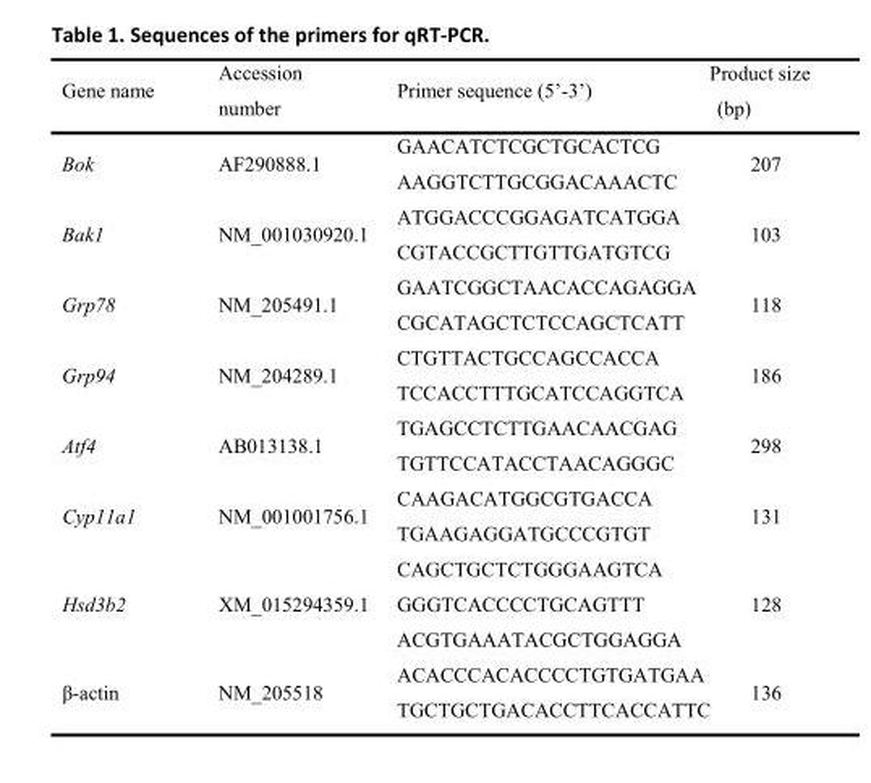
<table><tbody><tr><td>Gene name</td><td>Accession number</td><td>Primer sequence (5’-3’)</td><td colspan="2">Product size (bp)</td></tr><tr><td>Bok</td><td>AF290888.1</td><td colspan="2">GAACATCTCGCTGCACTCG AAGGTCTTGCGGACAAACTC</td><td>207</td></tr><tr><td rowspan="2">Bak1</td><td rowspan="2">NM_001030920.1</td><td colspan="2">ATGGACCCGGAGATCATGGA</td><td rowspan="2">103</td></tr><tr><td colspan="2">CGTACCGCTTGTTGATGTCG</td></tr><tr><td rowspan="2">Grp78</td><td rowspan="2">NM_205491.1</td><td colspan="2">GAATCGGCTAACACCAGAGGA</td><td rowspan="2">118</td></tr><tr><td colspan="2">CGCATAGCTCTCCAGCTCATT</td></tr><tr><td rowspan="2">Grp94</td><td rowspan="2">NM_204289.1</td><td colspan="2">CTGTTACTGCCAGCCACCA</td><td rowspan="2">186</td></tr><tr><td colspan="2">TCCACCTTTGCATCCAGGTCA</td></tr><tr><td rowspan="2">Atf4</td><td rowspan="2">AB013138.1</td><td colspan="2">TGAGCCTCTTGAACAACGAG</td><td rowspan="2">298</td></tr><tr><td colspan="2">TGTTCCATACCTAACAGGGC</td></tr><tr><td rowspan="2">Cyp11a1</td><td rowspan="2">NM_001001756.1</td><td colspan="2">CAAGACATGGCGTGACCA</td><td rowspan="2">131</td></tr><tr><td colspan="2">TGAAGAGGATGCCCGTGT</td></tr><tr><td rowspan="3">Hsd3b2</td><td rowspan="3">XM_015294359.1</td><td colspan="2">CAGCTGCTCTGGGAAGTCA</td><td rowspan="3">128</td></tr><tr><td colspan="2">GGGTCACCCCTGCAGTTT</td></tr><tr><td colspan="2">ACGTGAAATACGCTGGAGGA</td></tr><tr><td rowspan="2">β-actin</td><td rowspan="2">NM_205518</td><td colspan="2">ACACCCACACCCCTGTGATGAA</td><td rowspan="2">136</td></tr><tr><td colspan="2">TGCTGCTGACACCTTCACCATTC</td></tr></tbody></table>